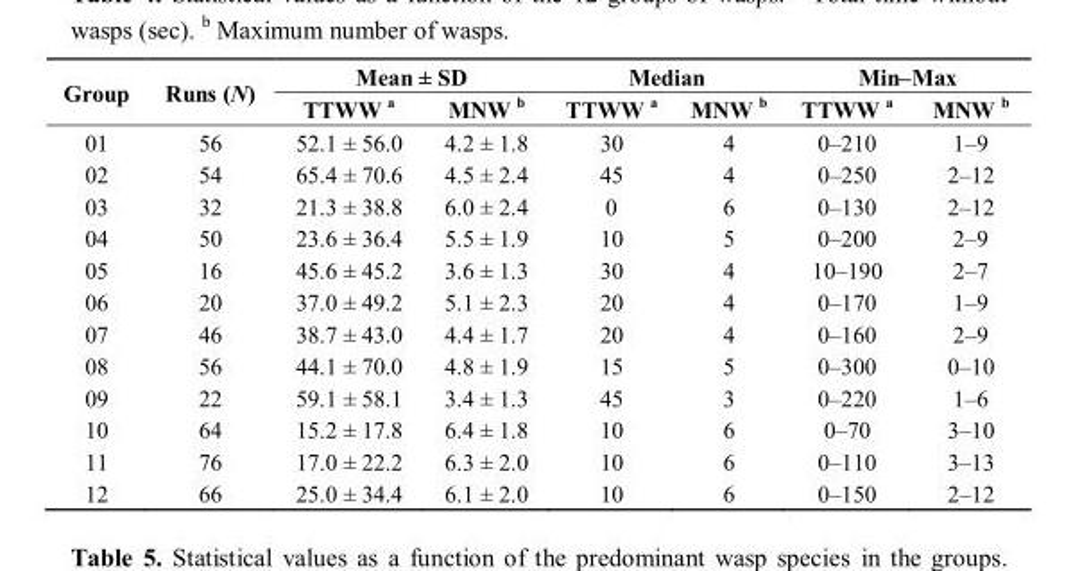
<table><thead><tr><td rowspan="2">Group</td><td rowspan="2">Runs (N)</td><td colspan="2">Mean ± SD</td><td colspan="2">Median</td><td colspan="2">Min–Max</td></tr><tr><td>TTWW <sup>a</sup></td><td>MNW <sup>b</sup></td><td>TTWW <sup>a</sup></td><td>MNW <sup>b</sup></td><td>TTWW <sup>a</sup></td><td>MNW <sup>b</sup></td></tr></thead><tbody><tr><td>01</td><td>56</td><td>52.1 ± 56.0</td><td>4.2 ± 1.8</td><td>30</td><td>4</td><td>0–210</td><td>1–9</td></tr><tr><td>02</td><td>54</td><td>65.4 ± 70.6</td><td>4.5 ± 2.4</td><td>45</td><td>4</td><td>0–250</td><td>2–12</td></tr><tr><td>03</td><td>32</td><td>21.3 ± 38.8</td><td>6.0 ± 2.4</td><td>0</td><td>6</td><td>0–130</td><td>2–12</td></tr><tr><td>04</td><td>50</td><td>23.6 ± 36.4</td><td>5.5 ± 1.9</td><td>10</td><td>5</td><td>0–200</td><td>2–9</td></tr><tr><td>05</td><td>16</td><td>45.6 ± 45.2</td><td>3.6 ± 1.3</td><td>30</td><td>4</td><td>10–190</td><td>2–7</td></tr><tr><td>06</td><td>20</td><td>37.0 ± 49.2</td><td>5.1 ± 2.3</td><td>20</td><td>4</td><td>0–170</td><td>1–9</td></tr><tr><td>07</td><td>46</td><td>38.7 ± 43.0</td><td>4.4 ± 1.7</td><td>20</td><td>4</td><td>0–160</td><td>2–9</td></tr><tr><td>08</td><td>56</td><td>44.1 ± 70.0</td><td>4.8 ± 1.9</td><td>15</td><td>5</td><td>0–300</td><td>0–10</td></tr><tr><td>09</td><td>22</td><td>59.1 ± 58.1</td><td>3.4 ± 1.3</td><td>45</td><td>3</td><td>0–220</td><td>1–6</td></tr><tr><td>10</td><td>64</td><td>15.2 ± 17.8</td><td>6.4 ± 1.8</td><td>10</td><td>6</td><td>0–70</td><td>3–10</td></tr><tr><td>11</td><td>76</td><td>17.0 ± 22.2</td><td>6.3 ± 2.0</td><td>10</td><td>6</td><td>0–110</td><td>3–13</td></tr><tr><td>12</td><td>66</td><td>25.0 ± 34.4</td><td>6.1 ± 2.0</td><td>10</td><td>6</td><td>0–150</td><td>2–12</td></tr></tbody></table>